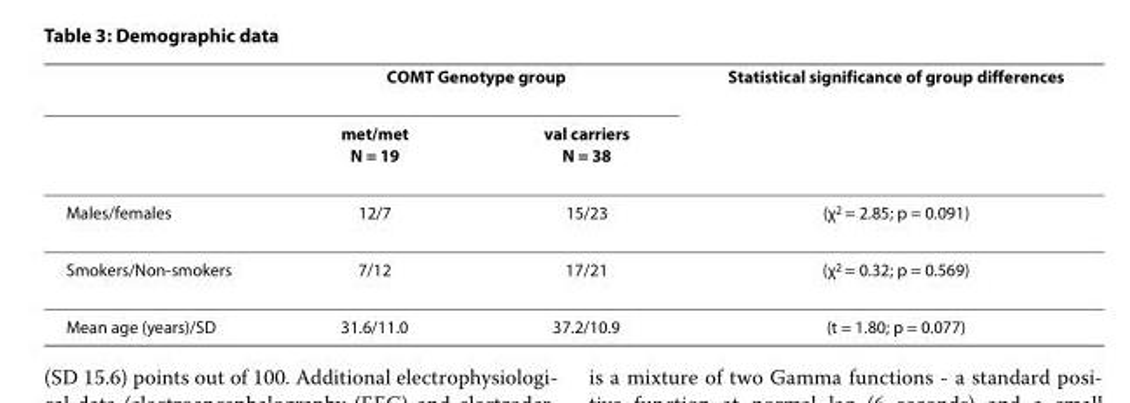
<table><thead><tr><td rowspan="2"></td><td colspan="2">COMT Genotype group</td><td rowspan="2">Statistical significance of group differences</td></tr><tr><td>met/met N = 19</td><td>val carriers N = 38</td></tr></thead><tbody><tr><td>Males/females</td><td>12/7</td><td>15/23</td><td>(χ<sup>2</sup> = 2.85; p = 0.091)</td></tr><tr><td>Smokers/Non-smokers</td><td>7/12</td><td>17/21</td><td>(χ<sup>2</sup> = 0.32; p = 0.569)</td></tr><tr><td>Mean age (years)/SD</td><td>31.6/11.0</td><td>37.2/10.9</td><td>(t = 1.80; p = 0.077)</td></tr></tbody></table>